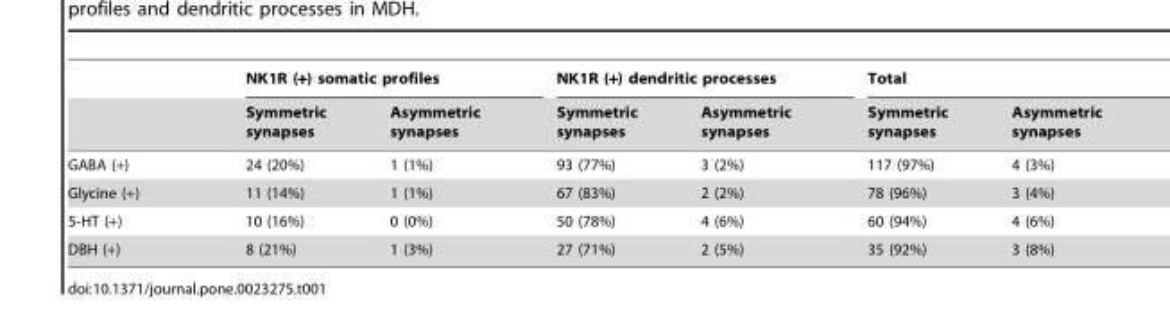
<table><thead><tr><td rowspan="2"></td><td colspan="2">NK1R (+) somatic profiles</td><td colspan="2">NK1R (+) dendritic processes</td><td colspan="2">Total</td></tr><tr><td>Symmetric synapses</td><td>Asymmetric synapses</td><td>Symmetric synapses</td><td>Asymmetric synapses</td><td>Symmetric synapses</td><td>Asymmetric synapses</td></tr></thead><tbody><tr><td>GABA (+)</td><td>24 (20%)</td><td>1 (1%)</td><td>93 (77%)</td><td>3 (2%)</td><td>117 (97%)</td><td>4 (3%)</td></tr><tr><td>Glycine (+)</td><td>11 (14%)</td><td>1 (1%)</td><td>67 (83%)</td><td>2 (2%)</td><td>78 (96%)</td><td>3 (4%)</td></tr><tr><td>5-HT (+)</td><td>10 (16%)</td><td>0 (0%)</td><td>50 (78%)</td><td>4 (6%)</td><td>60 (94%)</td><td>4 (6%)</td></tr><tr><td>DBH (+)</td><td>8 (21%)</td><td>1 (3%)</td><td>27 (71%)</td><td>2 (5%)</td><td>35 (92%)</td><td>3 (8%)</td></tr></tbody></table>